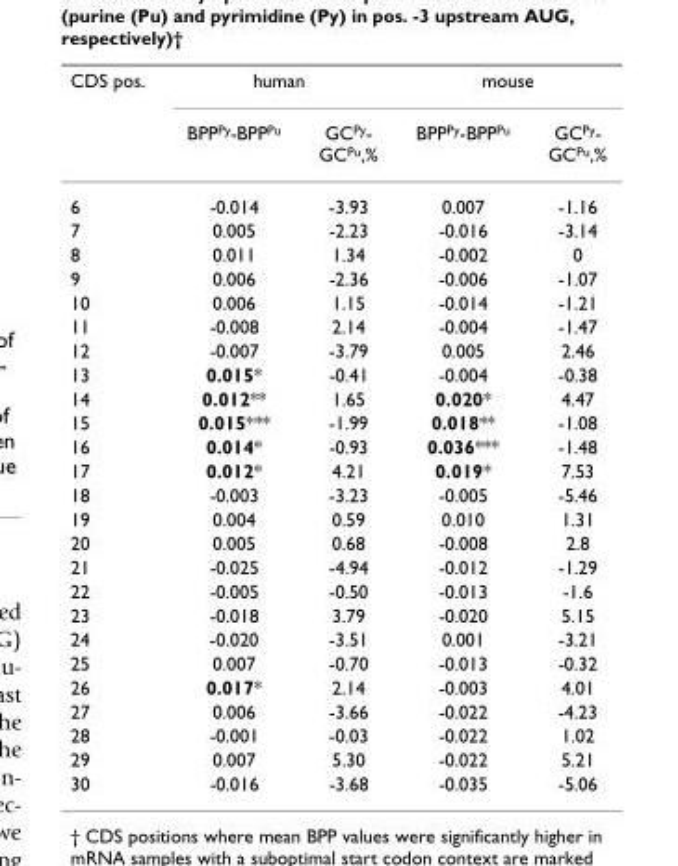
<table><thead><tr><td rowspan="2">CDS pos.</td><td colspan="2">human</td><td colspan="2">mouse</td></tr><tr><td>BPP<sup>Py</sup>-BPP<sup>Pu</sup></td><td>GC<sup>Py</sup>- GC<sup>Pu</sup>,%</td><td>BPP<sup>Py</sup>-BPP<sup>Pu</sup></td><td>GC<sup>Py</sup>- GC<sup>Pu</sup>,%</td></tr></thead><tbody><tr><td>6</td><td>-0.014</td><td>-3.93</td><td>0.007</td><td>-1.16</td></tr><tr><td>7</td><td>0.005</td><td>-2.23</td><td>-0.016</td><td>-3.14</td></tr><tr><td>8</td><td>0.011</td><td>1.34</td><td>-0.002</td><td>0</td></tr><tr><td>9</td><td>0.006</td><td>-2.36</td><td>-0.006</td><td>-1.07</td></tr><tr><td>10</td><td>0.006</td><td>1.15</td><td>-0.014</td><td>-1.21</td></tr><tr><td>11</td><td>-0.008</td><td>2.14</td><td>-0.004</td><td>-1.47</td></tr><tr><td>12</td><td>-0.007</td><td>-3.79</td><td>0.005</td><td>2.46</td></tr><tr><td>13</td><td>0.015*</td><td>-0.41</td><td>-0.004</td><td>-0.38</td></tr><tr><td>14</td><td>0.012**</td><td>1.65</td><td>0.020*</td><td>4.47</td></tr><tr><td>15</td><td>0.015***</td><td>-1.99</td><td>0.018**</td><td>-1.08</td></tr><tr><td>16</td><td>0.014*</td><td>-0.93</td><td>0.036***</td><td>-1.48</td></tr><tr><td>17</td><td>0.012*</td><td>4.21</td><td>0.019*</td><td>7.53</td></tr><tr><td>18</td><td>-0.003</td><td>-3.23</td><td>-0.005</td><td>-5.46</td></tr><tr><td>19</td><td>0.004</td><td>0.59</td><td>0.010</td><td>1.31</td></tr><tr><td>20</td><td>0.005</td><td>0.68</td><td>-0.008</td><td>2.8</td></tr><tr><td>21</td><td>-0.025</td><td>-4.94</td><td>-0.012</td><td>-1.29</td></tr><tr><td>22</td><td>-0.005</td><td>-0.50</td><td>-0.013</td><td>-1.6</td></tr><tr><td>23</td><td>-0.018</td><td>3.79</td><td>-0.020</td><td>5.15</td></tr><tr><td>24</td><td>-0.020</td><td>-3.51</td><td>0.001</td><td>-3.21</td></tr><tr><td>25</td><td>0.007</td><td>-0.70</td><td>-0.013</td><td>-0.32</td></tr><tr><td>26</td><td>0.017*</td><td>2.14</td><td>-0.003</td><td>4.01</td></tr><tr><td>27</td><td>0.006</td><td>-3.66</td><td>-0.022</td><td>-4.23</td></tr><tr><td>28</td><td>-0.001</td><td>-0.03</td><td>-0.022</td><td>1.02</td></tr><tr><td>29</td><td>0.007</td><td>5.30</td><td>-0.022</td><td>5.21</td></tr><tr><td>30</td><td>-0.016</td><td>-3.68</td><td>-0.035</td><td>-5.06</td></tr></tbody></table>